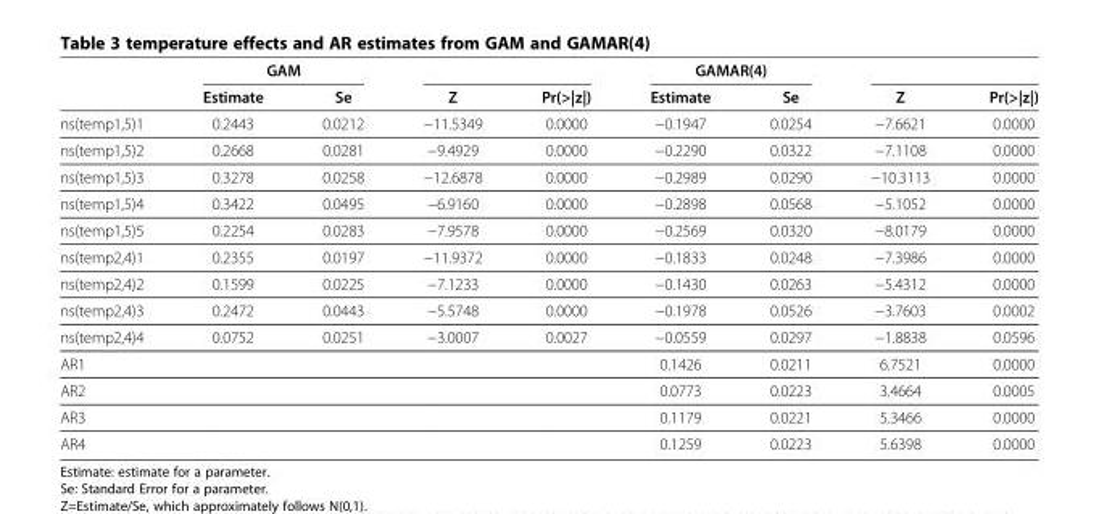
<table><thead><tr><td rowspan="2"></td><td colspan="2">GAM</td><td rowspan="2">Z</td><td rowspan="2">Pr(&gt;|z|)</td><td colspan="2">GAMAR(4)</td><td rowspan="2">Z</td><td rowspan="2">Pr(&gt;|z|)</td></tr><tr><td>Estimate</td><td>Se</td><td>Estimate</td><td>Se</td></tr></thead><tbody><tr><td>ns(temp1,5)1</td><td>0.2443</td><td>0.0212</td><td>−11.5349</td><td>0.0000</td><td>−0.1947</td><td>0.0254</td><td>−7.6621</td><td>0.0000</td></tr><tr><td>ns(temp1,5)2</td><td>0.2668</td><td>0.0281</td><td>−9.4929</td><td>0.0000</td><td>−0.2290</td><td>0.0322</td><td>−7.1108</td><td>0.0000</td></tr><tr><td>ns(temp1,5)3</td><td>0.3278</td><td>0.0258</td><td>−12.6878</td><td>0.0000</td><td>−0.2989</td><td>0.0290</td><td>−10.3113</td><td>0.0000</td></tr><tr><td>ns(temp1,5)4</td><td>0.3422</td><td>0.0495</td><td>−6.9160</td><td>0.0000</td><td>−0.2898</td><td>0.0568</td><td>−5.1052</td><td>0.0000</td></tr><tr><td>ns(temp1,5)5</td><td>0.2254</td><td>0.0283</td><td>−7.9578</td><td>0.0000</td><td>−0.2569</td><td>0.0320</td><td>−8.0179</td><td>0.0000</td></tr><tr><td>ns(temp2,4)1</td><td>0.2355</td><td>0.0197</td><td>−11.9372</td><td>0.0000</td><td>−0.1833</td><td>0.0248</td><td>−7.3986</td><td>0.0000</td></tr><tr><td>ns(temp2,4)2</td><td>0.1599</td><td>0.0225</td><td>−7.1233</td><td>0.0000</td><td>−0.1430</td><td>0.0263</td><td>−5.4312</td><td>0.0000</td></tr><tr><td>ns(temp2,4)3</td><td>0.2472</td><td>0.0443</td><td>−5.5748</td><td>0.0000</td><td>−0.1978</td><td>0.0526</td><td>−3.7603</td><td>0.0002</td></tr><tr><td>ns(temp2,4)4</td><td>0.0752</td><td>0.0251</td><td>−3.0007</td><td>0.0027</td><td>−0.0559</td><td>0.0297</td><td>−1.8838</td><td>0.0596</td></tr><tr><td>AR1</td><td></td><td></td><td></td><td></td><td>0.1426</td><td>0.0211</td><td>6.7521</td><td>0.0000</td></tr><tr><td>AR2</td><td></td><td></td><td></td><td></td><td>0.0773</td><td>0.0223</td><td>3.4664</td><td>0.0005</td></tr><tr><td>AR3</td><td></td><td></td><td></td><td></td><td>0.1179</td><td>0.0221</td><td>5.3466</td><td>0.0000</td></tr><tr><td>AR4</td><td></td><td></td><td></td><td></td><td>0.1259</td><td>0.0223</td><td>5.6398</td><td>0.0000</td></tr></tbody></table>